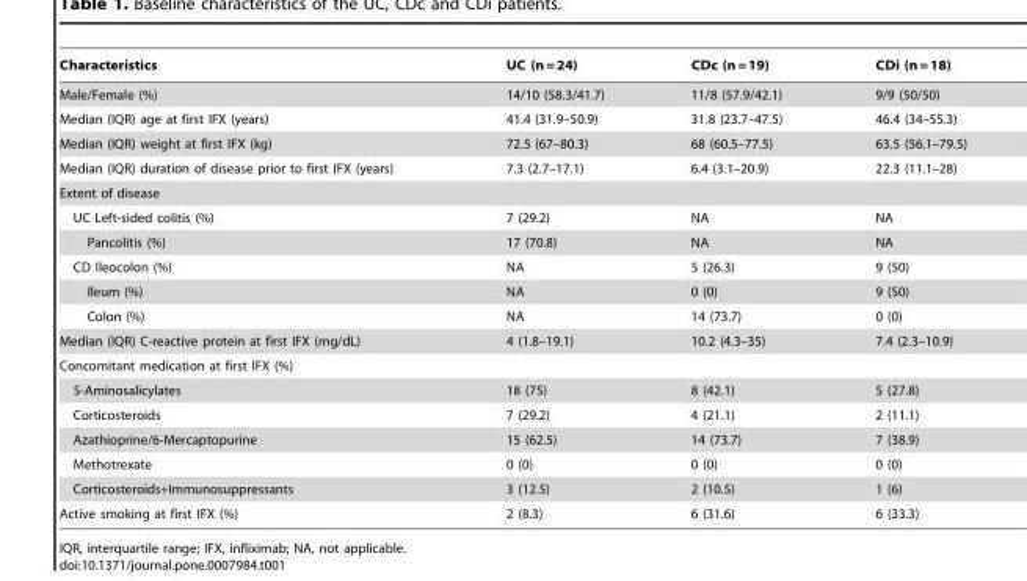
<table><thead><tr><td>Characteristics</td><td>UC (n = 24)</td><td>CDc (n = 19)</td><td>CDi (n = 18)</td></tr></thead><tbody><tr><td>Male/Female (%)</td><td>14/10 (58.3/41.7)</td><td>11/8 (57.9/42.1)</td><td>9/9 (50/50)</td></tr><tr><td>Median (IQR) age at first IFX (years)</td><td>41.4 (31.9–50.9)</td><td>31.8 (23.7–47.5)</td><td>46.4 (34–55.3)</td></tr><tr><td>Median (IQR) weight at first IFX (kg)</td><td>72.5 (67–80.3)</td><td>68 (60.5–77.5)</td><td>63.5 (56.1–79.5)</td></tr><tr><td>Median (IQR) duration of disease prior to first IFX (years)</td><td>7.3 (2.7–17.1)</td><td>6.4 (3.1–20.9)</td><td>22.3 (11.1–28)</td></tr><tr><td colspan="4">Extent of disease</td></tr><tr><td>UC Left-sided colitis (%)</td><td>7 (29.2)</td><td>NA</td><td>NA</td></tr><tr><td>Pancolitis (%)</td><td>17 (70.8)</td><td>NA</td><td>NA</td></tr><tr><td>CD Ileocolon (%)</td><td>NA</td><td>5 (26.3)</td><td>9 (50)</td></tr><tr><td>Ileum (%)</td><td>NA</td><td>0 (0)</td><td>9 (50)</td></tr><tr><td>Colon (%)</td><td>NA</td><td>14 (73.7)</td><td>0 (0)</td></tr><tr><td>Median (IQR) C-reactive protein at first IFX (mg/dL)</td><td>4 (1.8–19.1)</td><td>10.2 (4.3–35)</td><td>7.4 (2.3–10.9)</td></tr><tr><td colspan="4">Concomitant medication at first IFX (%)</td></tr><tr><td>5-Aminosalicylates</td><td>18 (75)</td><td>8 (42.1)</td><td>5 (27.8)</td></tr><tr><td>Corticosteroids</td><td>7 (29.2)</td><td>4 (21.1)</td><td>2 (11.1)</td></tr><tr><td>Azathioprine/6-Mercaptopurine</td><td>15 (62.5)</td><td>14 (73.7)</td><td>7 (38.9)</td></tr><tr><td>Methotrexate</td><td>0 (0)</td><td>0 (0)</td><td>0 (0)</td></tr><tr><td>Corticosteroids+Immunosuppressants</td><td>3 (12.5)</td><td>2 (10.5)</td><td>1 (6)</td></tr><tr><td>Active smoking at first IFX (%)</td><td>2 (8.3)</td><td>6 (31.6)</td><td>6 (33.3)</td></tr></tbody></table>